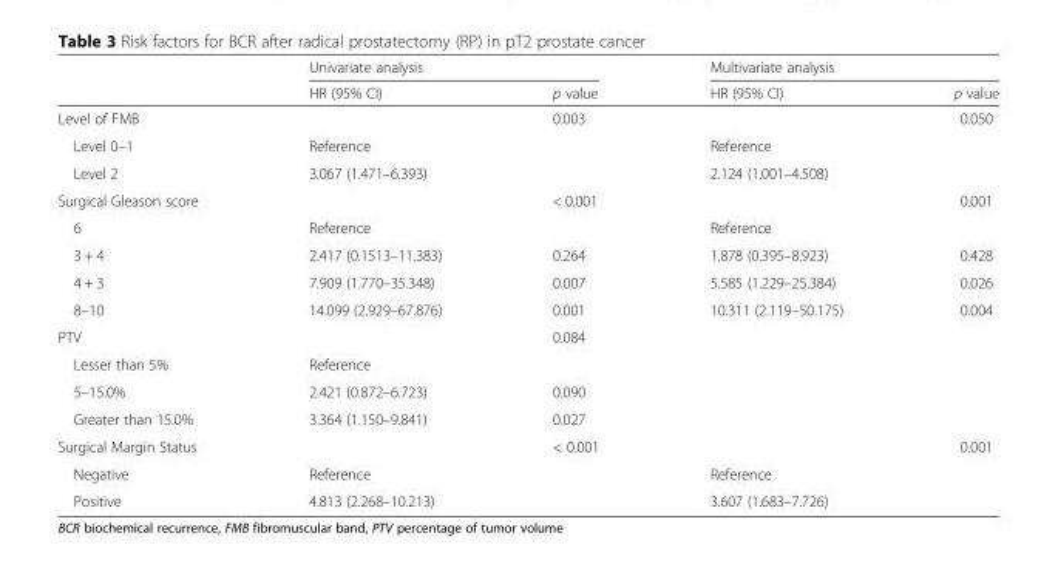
<table><thead><tr><td rowspan="2"></td><td colspan="2">Univariate analysis</td><td colspan="2">Multivariate analysis</td></tr><tr><td>HR (95% CI)</td><td>p value</td><td>HR (95% CI)</td><td>p value</td></tr></thead><tbody><tr><td>Level of FMB</td><td></td><td>0.003</td><td></td><td>0.050</td></tr><tr><td>Level 0–1</td><td>Reference</td><td></td><td>Reference</td><td></td></tr><tr><td>Level 2</td><td>3.067 (1.471–6.393)</td><td></td><td>2.124 (1.001–4.508)</td><td></td></tr><tr><td>Surgical Gleason score</td><td></td><td>&lt; 0.001</td><td></td><td>0.001</td></tr><tr><td>6</td><td>Reference</td><td></td><td>Reference</td><td></td></tr><tr><td>3 + 4</td><td>2.417 (0.1513–11.383)</td><td>0.264</td><td>1.878 (0.395–8.923)</td><td>0.428</td></tr><tr><td>4 + 3</td><td>7.909 (1.770–35.348)</td><td>0.007</td><td>5.585 (1.229–25.384)</td><td>0.026</td></tr><tr><td>8–10</td><td>14.099 (2.929–67.876)</td><td>0.001</td><td>10.311 (2.119–50.175)</td><td>0.004</td></tr><tr><td>PTV</td><td></td><td>0.084</td><td></td><td></td></tr><tr><td>Lesser than 5%</td><td>Reference</td><td></td><td></td><td></td></tr><tr><td>5–15.0%</td><td>2.421 (0.872–6.723)</td><td>0.090</td><td></td><td></td></tr><tr><td>Greater than 15.0%</td><td>3.364 (1.150–9.841)</td><td>0.027</td><td></td><td></td></tr><tr><td>Surgical Margin Status</td><td></td><td>&lt; 0.001</td><td></td><td>0.001</td></tr><tr><td>Negative</td><td>Reference</td><td></td><td>Reference</td><td></td></tr><tr><td>Positive</td><td>4.813 (2.268–10.213)</td><td></td><td>3.607 (1.683–7.726)</td><td></td></tr></tbody></table>